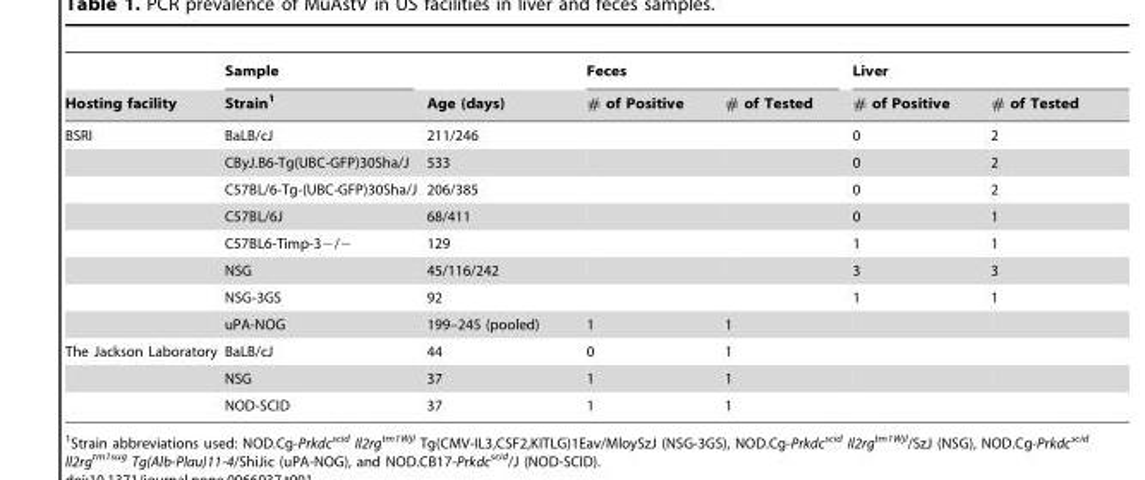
<table><thead><tr><td rowspan="2">Hosting facility</td><td rowspan="2">Sample Strain<sup>1</sup></td><td rowspan="2">Age (days)</td><td colspan="2">Feces</td><td colspan="2">Liver</td></tr><tr><td># of Positive</td><td># of Tested</td><td># of Positive</td><td># of Tested</td></tr></thead><tbody><tr><td rowspan="8">BSRI</td><td>BaLB/cJ</td><td>211/246</td><td></td><td></td><td>0</td><td>2</td></tr><tr><td>CByJ.B6-Tg(UBC-GFP)30Sha/J</td><td>533</td><td></td><td></td><td>0</td><td>2</td></tr><tr><td>C57BL/6-Tg-(UBC-GFP)30Sha/J</td><td>206/385</td><td></td><td></td><td>0</td><td>2</td></tr><tr><td>C57BL/6J</td><td>68/411</td><td></td><td></td><td>0</td><td>1</td></tr><tr><td>C57BL6-Timp-3−/−</td><td>129</td><td></td><td></td><td>1</td><td>1</td></tr><tr><td>NSG</td><td>45/116/242</td><td></td><td></td><td>3</td><td>3</td></tr><tr><td>NSG-3GS</td><td>92</td><td></td><td></td><td>1</td><td>1</td></tr><tr><td>uPA-NOG</td><td>199–245 (pooled)</td><td>1</td><td>1</td><td></td><td></td></tr><tr><td rowspan="3">The Jackson Laboratory</td><td>BaLB/cJ</td><td>44</td><td>0</td><td>1</td><td></td><td></td></tr><tr><td>NSG</td><td>37</td><td>1</td><td>1</td><td></td><td></td></tr><tr><td>NOD-SCID</td><td>37</td><td>1</td><td>1</td><td></td><td></td></tr></tbody></table>